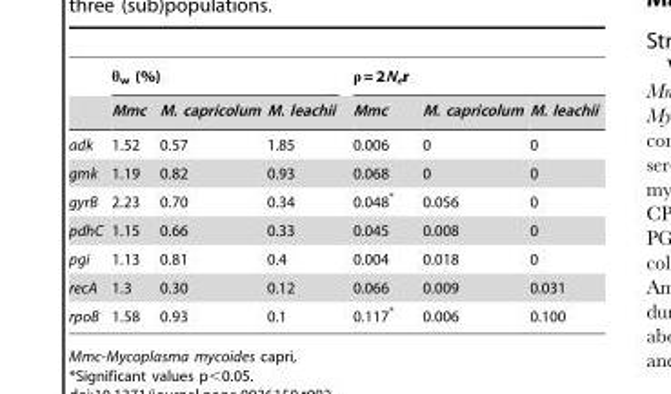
<table><thead><tr><td rowspan="2"></td><td colspan="3">θ<sub>w</sub> (%)</td><td colspan="3">ρ = 2N<sub>e</sub>r</td></tr><tr><td>Mmc</td><td>M. capricolum</td><td>M. leachii</td><td>Mmc</td><td>M. capricolum</td><td>M. leachii</td></tr></thead><tbody><tr><td>adk</td><td>1.52</td><td>0.57</td><td>1.85</td><td>0.006</td><td>0</td><td>0</td></tr><tr><td>gmk</td><td>1.19</td><td>0.82</td><td>0.93</td><td>0.068</td><td>0</td><td>0</td></tr><tr><td>gyrB</td><td>2.23</td><td>0.70</td><td>0.34</td><td>0.048*</td><td>0.056</td><td>0</td></tr><tr><td>pdhC</td><td>1.15</td><td>0.66</td><td>0.33</td><td>0.045</td><td>0.008</td><td>0</td></tr><tr><td>pgi</td><td>1.13</td><td>0.81</td><td>0.4</td><td>0.004</td><td>0.018</td><td>0</td></tr><tr><td>recA</td><td>1.3</td><td>0.30</td><td>0.12</td><td>0.066</td><td>0.009</td><td>0.031</td></tr><tr><td>rpoB</td><td>1.58</td><td>0.93</td><td>0.1</td><td>0.117*</td><td>0.006</td><td>0.100</td></tr></tbody></table>